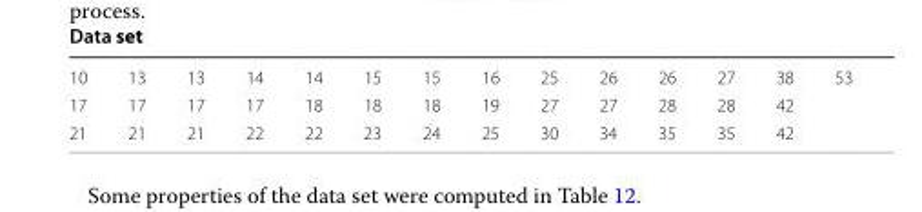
<table><tbody><tr><td>10</td><td>13</td><td>13</td><td>14</td><td>14</td><td>15</td><td>15</td><td>16</td><td>25</td><td>26</td><td>26</td><td>27</td><td>38</td><td>53</td></tr><tr><td>17</td><td>17</td><td>17</td><td>17</td><td>18</td><td>18</td><td>18</td><td>19</td><td>27</td><td>27</td><td>28</td><td>28</td><td>42</td><td></td></tr><tr><td>21</td><td>21</td><td>21</td><td>22</td><td>22</td><td>23</td><td>24</td><td>25</td><td>30</td><td>34</td><td>35</td><td>35</td><td>42</td><td></td></tr></tbody></table>